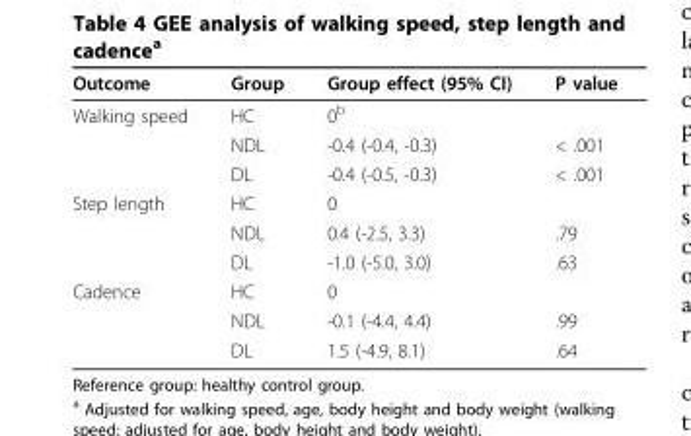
<table><thead><tr><td>Outcome</td><td>Group</td><td>Group effect (95% CI)</td><td>P value</td></tr></thead><tbody><tr><td rowspan="3">Walking speed</td><td>HC</td><td>0<sup>b</sup></td><td></td></tr><tr><td>NDL</td><td>-0.4 (-0.4, -0.3)</td><td>&lt; .001</td></tr><tr><td>DL</td><td>-0.4 (-0.5, -0.3)</td><td>&lt; .001</td></tr><tr><td rowspan="3">Step length</td><td>HC</td><td>0</td><td></td></tr><tr><td>NDL</td><td>0.4 (-2.5, 3.3)</td><td>.79</td></tr><tr><td>DL</td><td>-1.0 (-5.0, 3.0)</td><td>.63</td></tr><tr><td rowspan="3">Cadence</td><td>HC</td><td>0</td><td></td></tr><tr><td>NDL</td><td>-0.1 (-4.4, 4.4)</td><td>.99</td></tr><tr><td>DL</td><td>1.5 (-4.9, 8.1)</td><td>.64</td></tr></tbody></table>